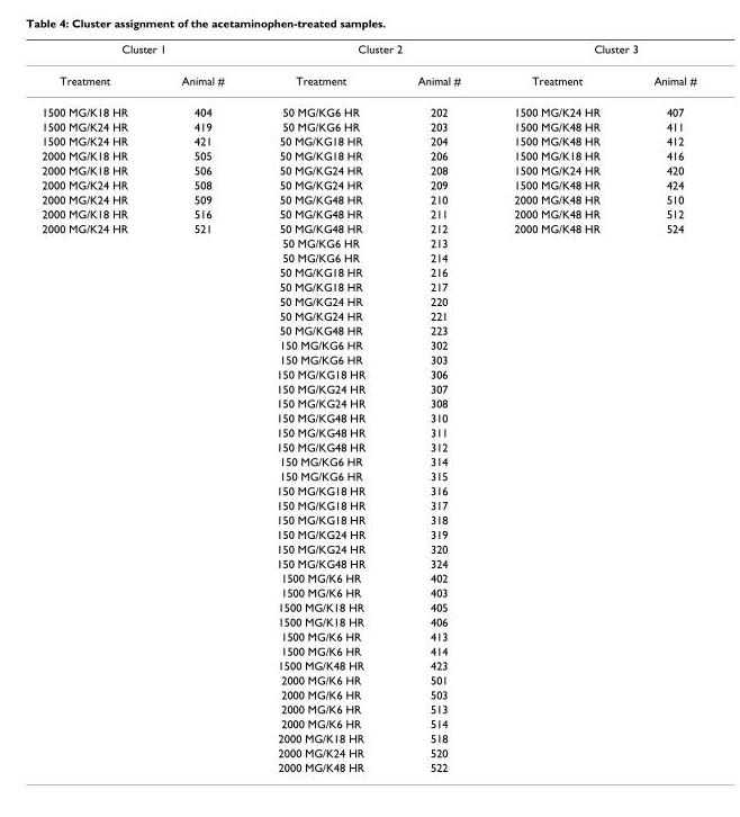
<table><thead><tr><td colspan="2">Cluster 1</td><td colspan="2">Cluster 2</td><td colspan="2">Cluster 3</td></tr><tr><td>Treatment</td><td>Animal #</td><td>Treatment</td><td>Animal #</td><td>Treatment</td><td>Animal #</td></tr></thead><tbody><tr><td>1500 MG/K18 HR</td><td>404</td><td>50 MG/KG6 HR</td><td>202</td><td>1500 MG/K24 HR</td><td>407</td></tr><tr><td>1500 MG/K24 HR</td><td>419</td><td>50 MG/KG6 HR</td><td>203</td><td>1500 MG/K48 HR</td><td>411</td></tr><tr><td>1500 MG/K24 HR</td><td>421</td><td>50 MG/KG18 HR</td><td>204</td><td>1500 MG/K48 HR</td><td>412</td></tr><tr><td>2000 MG/K18 HR</td><td>505</td><td>50 MG/KG18 HR</td><td>206</td><td>1500 MG/K18 HR</td><td>416</td></tr><tr><td>2000 MG/K18 HR</td><td>506</td><td>50 MG/KG24 HR</td><td>208</td><td>1500 MG/K24 HR</td><td>420</td></tr><tr><td>2000 MG/K24 HR</td><td>508</td><td>50 MG/KG24 HR</td><td>209</td><td>1500 MG/K48 HR</td><td>424</td></tr><tr><td>2000 MG/K24 HR</td><td>509</td><td>50 MG/KG48 HR</td><td>210</td><td>2000 MG/K48 HR</td><td>510</td></tr><tr><td>2000 MG/K18 HR</td><td>516</td><td>50 MG/KG48 HR</td><td>211</td><td>2000 MG/K48 HR</td><td>512</td></tr><tr><td rowspan="38">2000 MG/K24 HR</td><td>521</td><td>50 MG/KG48 HR</td><td>212</td><td>2000 MG/K48 HR</td><td>524</td></tr><tr><td></td><td>50 MG/KG6 HR</td><td>213</td><td></td><td></td></tr><tr><td></td><td>50 MG/KG6 HR</td><td>214</td><td></td><td></td></tr><tr><td></td><td>50 MG/KG18 HR</td><td>216</td><td></td><td></td></tr><tr><td></td><td>50 MG/KG18 HR</td><td>217</td><td></td><td></td></tr><tr><td></td><td>50 MG/KG24 HR</td><td>220</td><td></td><td></td></tr><tr><td></td><td>50 MG/KG24 HR</td><td>221</td><td></td><td></td></tr><tr><td></td><td>50 MG/KG48 HR</td><td>223</td><td></td><td></td></tr><tr><td></td><td>150 MG/KG6 HR</td><td>302</td><td></td><td></td></tr><tr><td></td><td>150 MG/KG6 HR</td><td>303</td><td></td><td></td></tr><tr><td></td><td>150 MG/KG18 HR</td><td>306</td><td></td><td></td></tr><tr><td></td><td>150 MG/KG24 HR</td><td>307</td><td></td><td></td></tr><tr><td></td><td>150 MG/KG24 HR</td><td>308</td><td></td><td></td></tr><tr><td></td><td>150 MG/KG48 HR</td><td>310</td><td></td><td></td></tr><tr><td></td><td>150 MG/KG48 HR</td><td>311</td><td></td><td></td></tr><tr><td></td><td>150 MG/KG48 HR</td><td>312</td><td></td><td></td></tr><tr><td></td><td>150 MG/KG6 HR</td><td>314</td><td></td><td></td></tr><tr><td></td><td>150 MG/KG6 HR</td><td>315</td><td></td><td></td></tr><tr><td></td><td>150 MG/KG18 HR</td><td>316</td><td></td><td></td></tr><tr><td></td><td>150 MG/KG18 HR</td><td>317</td><td></td><td></td></tr><tr><td></td><td>150 MG/KG18 HR</td><td>318</td><td></td><td></td></tr><tr><td></td><td>150 MG/KG24 HR</td><td>319</td><td></td><td></td></tr><tr><td></td><td>150 MG/KG24 HR</td><td>320</td><td></td><td></td></tr><tr><td></td><td>150 MG/KG48 HR</td><td>324</td><td></td><td></td></tr><tr><td></td><td>1500 MG/K6 HR</td><td>402</td><td></td><td></td></tr><tr><td></td><td>1500 MG/K6 HR</td><td>403</td><td></td><td></td></tr><tr><td></td><td>1500 MG/K18 HR</td><td>405</td><td></td><td></td></tr><tr><td></td><td>1500 MG/K18 HR</td><td>406</td><td></td><td></td></tr><tr><td></td><td>1500 MG/K6 HR</td><td>413</td><td></td><td></td></tr><tr><td></td><td>1500 MG/K6 HR</td><td>414</td><td></td><td></td></tr><tr><td></td><td>1500 MG/K48 HR</td><td>423</td><td></td><td></td></tr><tr><td></td><td>2000 MG/K6 HR</td><td>501</td><td></td><td></td></tr><tr><td></td><td>2000 MG/K6 HR</td><td>503</td><td></td><td></td></tr><tr><td></td><td>2000 MG/K6 HR</td><td>513</td><td></td><td></td></tr><tr><td></td><td>2000 MG/K6 HR</td><td>514</td><td></td><td></td></tr><tr><td></td><td>2000 MG/K18 HR</td><td>518</td><td></td><td></td></tr><tr><td></td><td>2000 MG/K24 HR</td><td>520</td><td></td><td></td></tr><tr><td></td><td>2000 MG/K48 HR</td><td>522</td><td></td><td></td></tr></tbody></table>